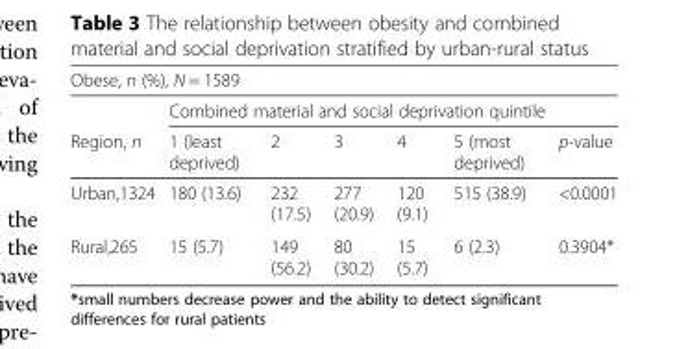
<table><thead><tr><td colspan="7">Obese, n (%), N = 1589</td></tr><tr><td rowspan="2">Region, n</td><td colspan="6">Combined material and social deprivation quintile</td></tr><tr><td>1 (least deprived)</td><td>2</td><td>3</td><td>4</td><td>5 (most deprived)</td><td>p-value</td></tr></thead><tbody><tr><td>Urban,1324</td><td>180 (13.6)</td><td>232 (17.5)</td><td>277 (20.9)</td><td>120 (9.1)</td><td>515 (38.9)</td><td>&lt;0.0001</td></tr><tr><td>Rural,265</td><td>15 (5.7)</td><td>149 (56.2)</td><td>80 (30.2)</td><td>15 (5.7)</td><td>6 (2.3)</td><td>0.3904*</td></tr></tbody></table>